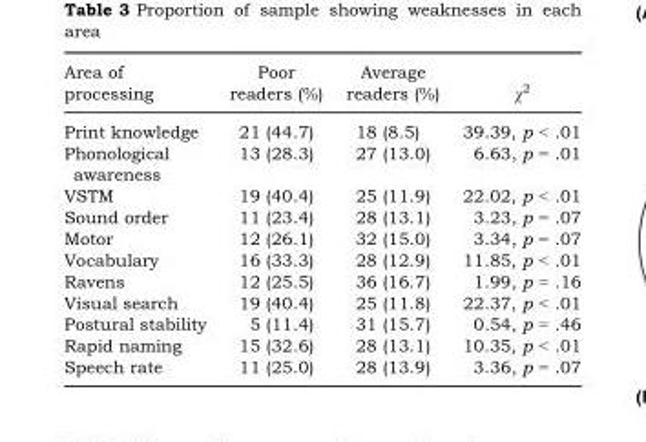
<table><thead><tr><td>Area of processing</td><td>Poor readers (%)</td><td>Average readers (%)</td><td>χ<sup>2</sup></td></tr></thead><tbody><tr><td>Print knowledge</td><td>21 (44.7)</td><td>18 (8.5)</td><td>39.39, p &lt; .01</td></tr><tr><td>Phonological awareness</td><td>13 (28.3)</td><td>27 (13.0)</td><td>6.63, p = .01</td></tr><tr><td>VSTM</td><td>19 (40.4)</td><td>25 (11.9)</td><td>22.02, p &lt; .01</td></tr><tr><td>Sound order</td><td>11 (23.4)</td><td>28 (13.1)</td><td>3.23, p = .07</td></tr><tr><td>Motor</td><td>12 (26.1)</td><td>32 (15.0)</td><td>3.34, p = .07</td></tr><tr><td>Vocabulary</td><td>16 (33.3)</td><td>28 (12.9)</td><td>11.85, p &lt; .01</td></tr><tr><td>Ravens</td><td>12 (25.5)</td><td>36 (16.7)</td><td>1.99, p = .16</td></tr><tr><td>Visual search</td><td>19 (40.4)</td><td>25 (11.8)</td><td>22.37, p &lt; .01</td></tr><tr><td>Postural stability</td><td>5 (11.4)</td><td>31 (15.7)</td><td>0.54, p = .46</td></tr><tr><td>Rapid naming</td><td>15 (32.6)</td><td>28 (13.1)</td><td>10.35, p &lt; .01</td></tr><tr><td>Speech rate</td><td>11 (25.0)</td><td>28 (13.9)</td><td>3.36, p = .07</td></tr></tbody></table>